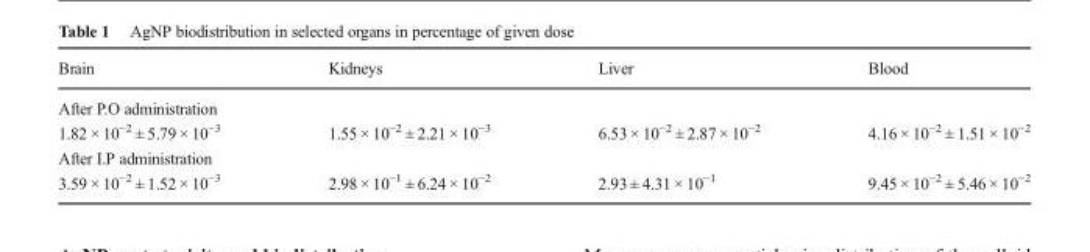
<table><thead><tr><td>Brain</td><td>Kidneys</td><td>Liver</td><td>Blood</td></tr></thead><tbody><tr><td colspan="4">After P.O administration</td></tr><tr><td>1.82 × 10<sup>−2</sup> ± 5.79 × 10<sup>−3</sup></td><td>1.55 × 10<sup>−2</sup> ± 2.21 × 10<sup>−3</sup></td><td>6.53 × 10<sup>−2</sup> ± 2.87 × 10<sup>−2</sup></td><td>4.16 × 10<sup>−2</sup> ± 1.51 × 10<sup>−2</sup></td></tr><tr><td colspan="4">After I.P administration</td></tr><tr><td>3.59 × 10<sup>−2</sup> ± 1.52 × 10<sup>−3</sup></td><td>2.98 × 10<sup>−1</sup> ± 6.24 × 10<sup>−2</sup></td><td>2.93 ± 4.31 × 10<sup>−1</sup></td><td>9.45 × 10<sup>−2</sup> ± 5.46 × 10<sup>−2</sup></td></tr></tbody></table>